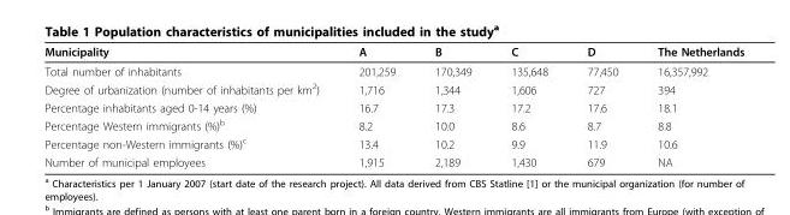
<table><thead><tr><td>Municipality</td><td>A</td><td>B</td><td>C</td><td>D</td><td>The Netherlands</td></tr></thead><tbody><tr><td>Total number of inhabitants</td><td>201,259</td><td>170,349</td><td>135,648</td><td>77,450</td><td>16,357,992</td></tr><tr><td>Degree of urbanization (number of inhabitants per km<sup>2</sup>)</td><td>1,716</td><td>1,344</td><td>1,606</td><td>727</td><td>394</td></tr><tr><td>Percentage inhabitants aged 0-14 years (%)</td><td>16.7</td><td>17.3</td><td>17.2</td><td>17.6</td><td>18.1</td></tr><tr><td>Percentage Western immigrants (%)<sup>b</sup></td><td>8.2</td><td>10.0</td><td>8.6</td><td>8.7</td><td>8.8</td></tr><tr><td>Percentage non-Western immigrants (%)<sup>c</sup></td><td>13.4</td><td>10.2</td><td>9.9</td><td>11.9</td><td>10.6</td></tr><tr><td>Number of municipal employees</td><td>1,915</td><td>2,189</td><td>1,430</td><td>679</td><td>NA</td></tr></tbody></table>